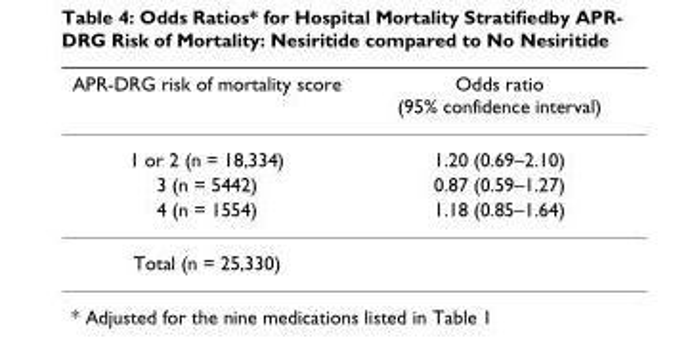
<table><thead><tr><td>APR-DRG risk of mortality score</td><td>Odds ratio (95% confidence interval)</td></tr></thead><tbody><tr><td>1 or 2 (n = 18,334)</td><td>1.20 (0.69–2.10)</td></tr><tr><td>3 (n = 5442)</td><td>0.87 (0.59–1.27)</td></tr><tr><td>4 (n = 1554)</td><td>1.18 (0.85–1.64)</td></tr><tr><td>Total (n = 25,330)</td><td></td></tr></tbody></table>